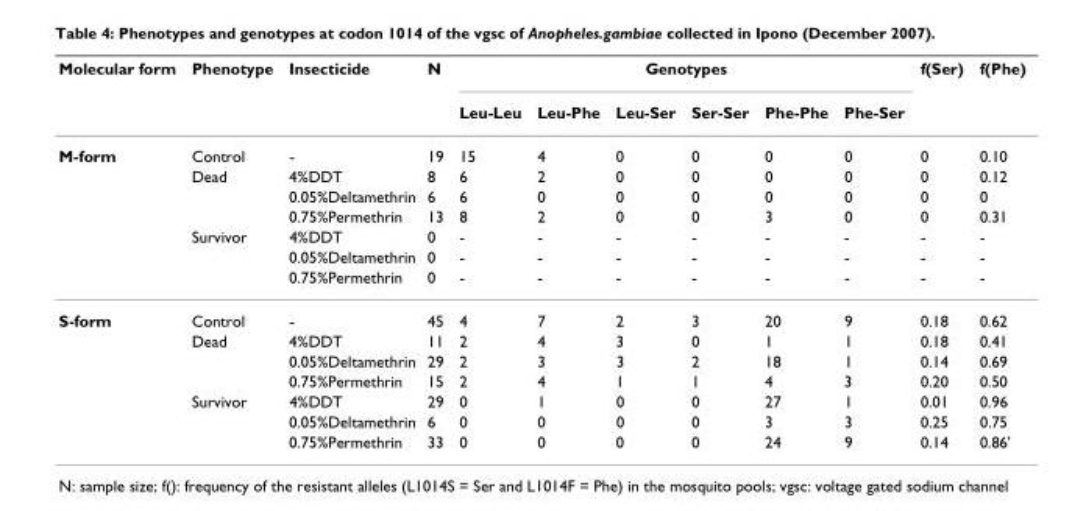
<table><thead><tr><td rowspan="2">Molecular form</td><td rowspan="2">Phenotype</td><td rowspan="2">Insecticide</td><td rowspan="2">N</td><td colspan="6">Genotypes</td><td rowspan="2">f(Ser)</td><td rowspan="2">f(Phe)</td></tr><tr><td>Leu-Leu</td><td>Leu-Phe</td><td>Leu-Ser</td><td>Ser-Ser</td><td>Phe-Phe</td><td>Phe-Ser</td></tr></thead><tbody><tr><td rowspan="7">M-form</td><td>Control</td><td>-</td><td>19</td><td>15</td><td>4</td><td>0</td><td>0</td><td>0</td><td>0</td><td>0</td><td>0.10</td></tr><tr><td>Dead</td><td>4%DDT</td><td>8</td><td>6</td><td>2</td><td>0</td><td>0</td><td>0</td><td>0</td><td>0</td><td>0.12</td></tr><tr><td></td><td>0.05%Deltamethrin</td><td>6</td><td>6</td><td>0</td><td>0</td><td>0</td><td>0</td><td>0</td><td>0</td><td>0</td></tr><tr><td></td><td>0.75%Permethrin</td><td>13</td><td>8</td><td>2</td><td>0</td><td>0</td><td>3</td><td>0</td><td>0</td><td>0.31</td></tr><tr><td>Survivor</td><td>4%DDT</td><td>0</td><td>-</td><td>-</td><td>-</td><td>-</td><td>-</td><td>-</td><td>-</td><td>-</td></tr><tr><td></td><td>0.05%Deltamethrin</td><td>0</td><td>-</td><td>-</td><td>-</td><td>-</td><td>-</td><td>-</td><td>-</td><td>-</td></tr><tr><td></td><td>0.75%Permethrin</td><td>0</td><td>-</td><td>-</td><td>-</td><td>-</td><td>-</td><td>-</td><td>-</td><td>-</td></tr><tr><td rowspan="7">S-form</td><td>Control</td><td>-</td><td>45</td><td>4</td><td>7</td><td>2</td><td>3</td><td>20</td><td>9</td><td>0.18</td><td>0.62</td></tr><tr><td>Dead</td><td>4%DDT</td><td>11</td><td>2</td><td>4</td><td>3</td><td>0</td><td>1</td><td>1</td><td>0.18</td><td>0.41</td></tr><tr><td></td><td>0.05%Deltamethrin</td><td>29</td><td>2</td><td>3</td><td>3</td><td>2</td><td>18</td><td>1</td><td>0.14</td><td>0.69</td></tr><tr><td></td><td>0.75%Permethrin</td><td>15</td><td>2</td><td>4</td><td>1</td><td>1</td><td>4</td><td>3</td><td>0.20</td><td>0.50</td></tr><tr><td>Survivor</td><td>4%DDT</td><td>29</td><td>0</td><td>1</td><td>0</td><td>0</td><td>27</td><td>1</td><td>0.01</td><td>0.96</td></tr><tr><td></td><td>0.05%Deltamethrin</td><td>6</td><td>0</td><td>0</td><td>0</td><td>0</td><td>3</td><td>3</td><td>0.25</td><td>0.75</td></tr><tr><td></td><td>0.75%Permethrin</td><td>33</td><td>0</td><td>0</td><td>0</td><td>0</td><td>24</td><td>9</td><td>0.14</td><td>0.86&#x27;</td></tr></tbody></table>